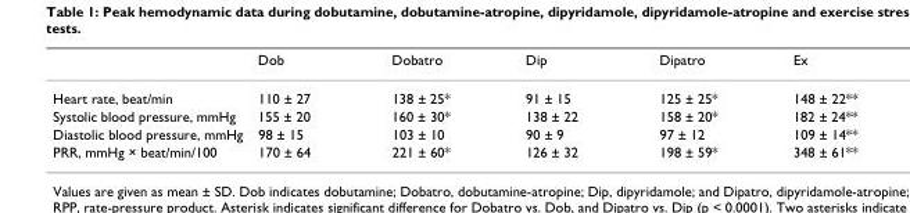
<table><thead><tr><td></td><td>Dob</td><td>Dobatro</td><td>Dip</td><td>Dipatro</td><td>Ex</td></tr></thead><tbody><tr><td>Heart rate, beat/min</td><td>110 ± 27</td><td>138 ± 25*</td><td>91 ± 15</td><td>125 ± 25*</td><td>148 ± 22**</td></tr><tr><td>Systolic blood pressure, mmHg</td><td>155 ± 20</td><td>160 ± 30*</td><td>138 ± 22</td><td>158 ± 20*</td><td>182 ± 24**</td></tr><tr><td>Diastolic blood pressure, mmHg</td><td>98 ± 15</td><td>103 ± 10</td><td>90 ± 9</td><td>97 ± 12</td><td>109 ± 14**</td></tr><tr><td>PRR, mmHg × beat/min/100</td><td>170 ± 64</td><td>221 ± 60*</td><td>126 ± 32</td><td>198 ± 59*</td><td>348 ± 61**</td></tr></tbody></table>